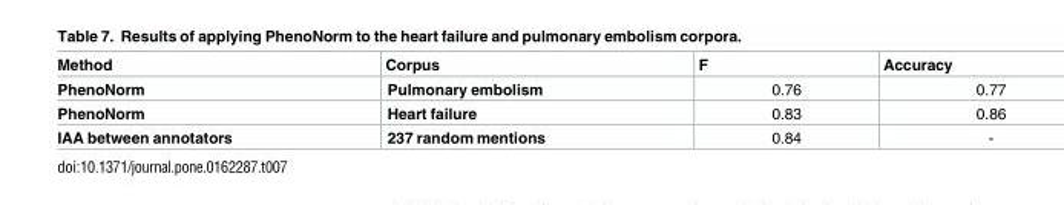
<table><thead><tr><td>Method</td><td>Corpus</td><td>F</td><td>Accuracy</td></tr></thead><tbody><tr><td>PhenoNorm</td><td>Pulmonary embolism</td><td>0.76</td><td>0.77</td></tr><tr><td>PhenoNorm</td><td>Heart failure</td><td>0.83</td><td>0.86</td></tr><tr><td>IAA between annotators</td><td>237 random mentions</td><td>0.84</td><td>-</td></tr></tbody></table>